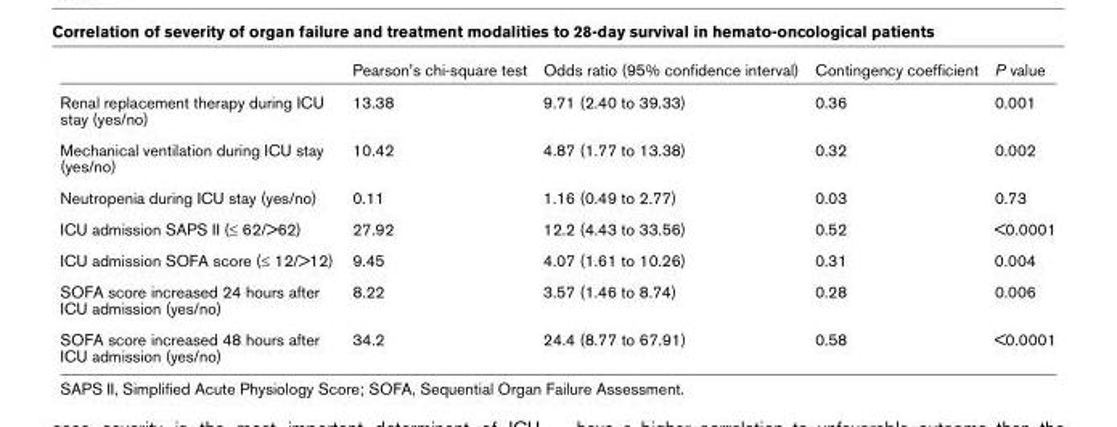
<table><thead><tr><td></td><td>Pearson&#x27;s chi-square test</td><td>Odds ratio (95% confidence interval)</td><td>Contingency coefficient</td><td>P value</td></tr></thead><tbody><tr><td>Renal replacement therapy during ICU stay (yes/no)</td><td>13.38</td><td>9.71 (2.40 to 39.33)</td><td>0.36</td><td>0.001</td></tr><tr><td>Mechanical ventilation during ICU stay (yes/no)</td><td>10.42</td><td>4.87 (1.77 to 13.38)</td><td>0.32</td><td>0.002</td></tr><tr><td>Neutropenia during ICU stay (yes/no)</td><td>0.11</td><td>1.16 (0.49 to 2.77)</td><td>0.03</td><td>0.73</td></tr><tr><td>ICU admission SAPS II (≤ 62/&gt;62)</td><td>27.92</td><td>12.2 (4.43 to 33.56)</td><td>0.52</td><td>&lt;0.0001</td></tr><tr><td>ICU admission SOFA score (≤ 12/&gt;12)</td><td>9.45</td><td>4.07 (1.61 to 10.26)</td><td>0.31</td><td>0.004</td></tr><tr><td>SOFA score increased 24 hours after ICU admission (yes/no)</td><td>8.22</td><td>3.57 (1.46 to 8.74)</td><td>0.28</td><td>0.006</td></tr><tr><td>SOFA score increased 48 hours after ICU admission (yes/no)</td><td>34.2</td><td>24.4 (8.77 to 67.91)</td><td>0.58</td><td>&lt;0.0001</td></tr></tbody></table>